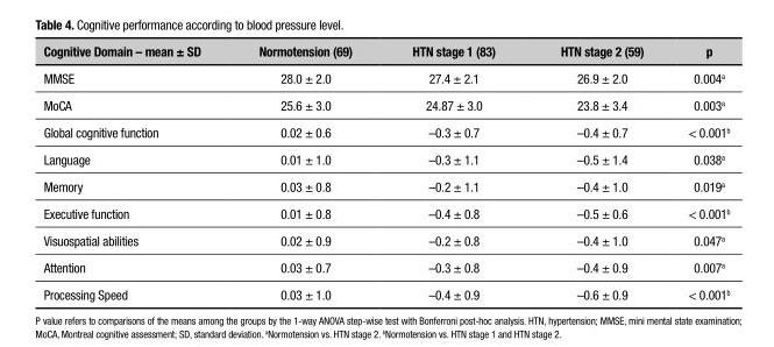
<table><thead><tr><td>Cognitive Domain – mean ± SD</td><td>Normotension (69)</td><td>HTN stage 1 (83)</td><td>HTN stage 2 (59)</td><td>p</td></tr></thead><tbody><tr><td>MMSE</td><td>28.0 ± 2.0</td><td>27.4 ± 2.1</td><td>26.9 ± 2.0</td><td>0.004<sup>a</sup></td></tr><tr><td>MoCA</td><td>25.6 ± 3.0</td><td>24.87 ± 3.0</td><td>23.8 ± 3.4</td><td>0.003<sup>a</sup></td></tr><tr><td>Global cognitive function</td><td>0.02 ± 0.6</td><td>–0.3 ± 0.7</td><td>–0.4 ± 0.7</td><td>&lt; 0.001<sup>b</sup></td></tr><tr><td>Language</td><td>0.01 ± 1.0</td><td>–0.3 ± 1.1</td><td>–0.5 ± 1.4</td><td>0.038<sup>a</sup></td></tr><tr><td>Memory</td><td>0.03 ± 0.8</td><td>–0.2 ± 1.1</td><td>–0.4 ± 1.0</td><td>0.019<sup>a</sup></td></tr><tr><td>Executive function</td><td>0.01 ± 0.8</td><td>–0.4 ± 0.8</td><td>–0.5 ± 0.6</td><td>&lt; 0.001<sup>b</sup></td></tr><tr><td>Visuospatial abilities</td><td>0.02 ± 0.9</td><td>–0.2 ± 0.8</td><td>–0.4 ± 1.0</td><td>0.047<sup>a</sup></td></tr><tr><td>Attention</td><td>0.03 ± 0.7</td><td>–0.3 ± 0.8</td><td>–0.4 ± 0.9</td><td>0.007<sup>a</sup></td></tr><tr><td>Processing Speed</td><td>0.03 ± 1.0</td><td>–0.4 ± 0.9</td><td>–0.6 ± 0.9</td><td>&lt; 0.001<sup>b</sup></td></tr></tbody></table>